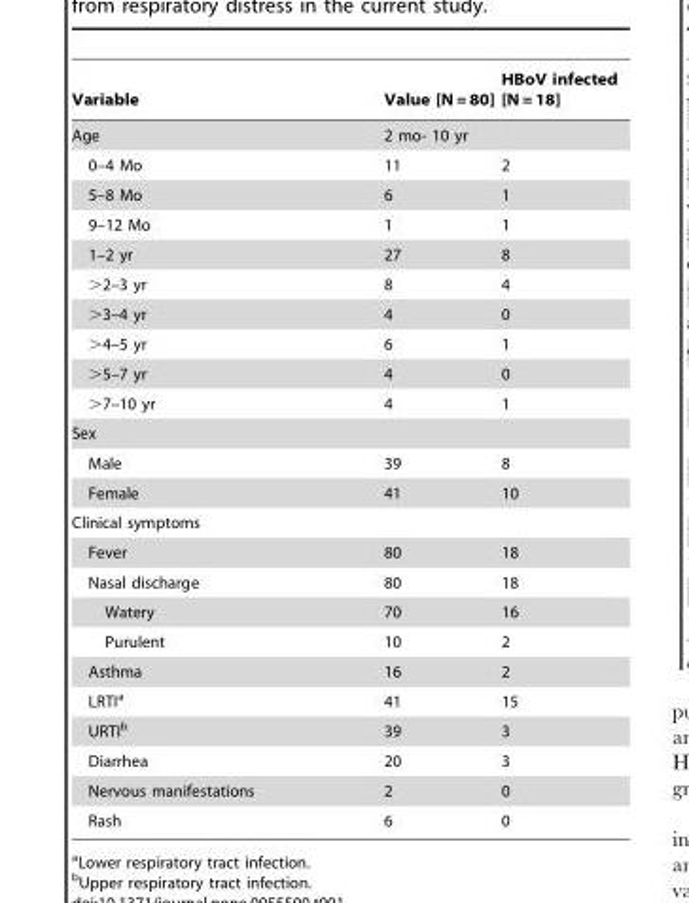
<table><thead><tr><td>Variable</td><td>Value [N = 80]</td><td>HBoV infected [N = 18]</td></tr></thead><tbody><tr><td>Age</td><td>2 mo- 10 yr</td><td></td></tr><tr><td>0–4 Mo</td><td>11</td><td>2</td></tr><tr><td>5–8 Mo</td><td>6</td><td>1</td></tr><tr><td>9–12 Mo</td><td>1</td><td>1</td></tr><tr><td>1–2 yr</td><td>27</td><td>8</td></tr><tr><td>&gt;2–3 yr</td><td>8</td><td>4</td></tr><tr><td>&gt;3–4 yr</td><td>4</td><td>0</td></tr><tr><td>&gt;4–5 yr</td><td>6</td><td>1</td></tr><tr><td>&gt;5–7 yr</td><td>4</td><td>0</td></tr><tr><td>&gt;7–10 yr</td><td>4</td><td>1</td></tr><tr><td colspan="3">Sex</td></tr><tr><td>Male</td><td>39</td><td>8</td></tr><tr><td>Female</td><td>41</td><td>10</td></tr><tr><td colspan="3">Clinical symptoms</td></tr><tr><td>Fever</td><td>80</td><td>18</td></tr><tr><td>Nasal discharge</td><td>80</td><td>18</td></tr><tr><td>Watery</td><td>70</td><td>16</td></tr><tr><td>Purulent</td><td>10</td><td>2</td></tr><tr><td>Asthma</td><td>16</td><td>2</td></tr><tr><td>LRTI<sup>a</sup></td><td>41</td><td>15</td></tr><tr><td>URTI<sup>b</sup></td><td>39</td><td>3</td></tr><tr><td>Diarrhea</td><td>20</td><td>3</td></tr><tr><td>Nervous manifestations</td><td>2</td><td>0</td></tr><tr><td>Rash</td><td>6</td><td>0</td></tr></tbody></table>